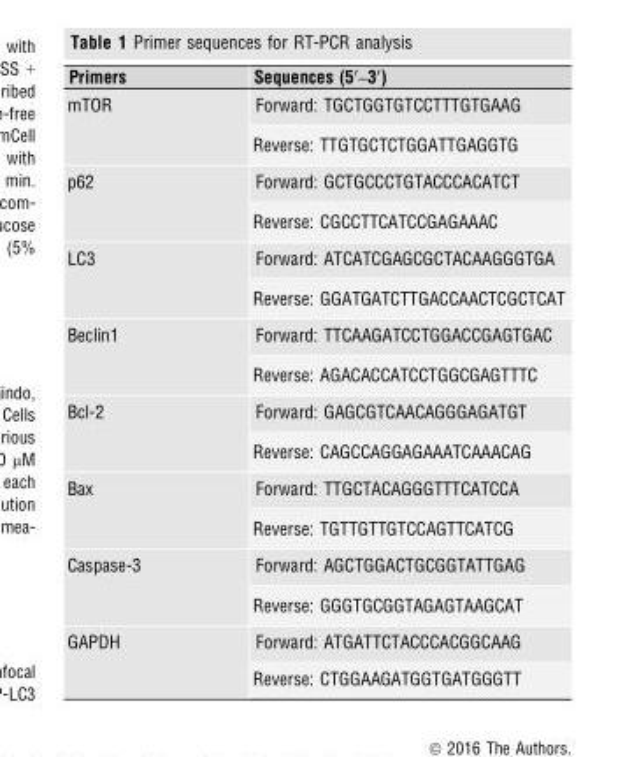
<table><thead><tr><td>Primers</td><td>Sequences (5′–3′)</td></tr></thead><tbody><tr><td rowspan="2">mTOR</td><td>Forward: TGCTGGTGTCCTTTGTGAAG</td></tr><tr><td>Reverse: TTGTGCTCTGGATTGAGGTG</td></tr><tr><td rowspan="2">p62</td><td>Forward: GCTGCCCTGTACCCACATCT</td></tr><tr><td>Reverse: CGCCTTCATCCGAGAAAC</td></tr><tr><td rowspan="2">LC3</td><td>Forward: ATCATCGAGCGCTACAAGGGTGA</td></tr><tr><td>Reverse: GGATGATCTTGACCAACTCGCTCAT</td></tr><tr><td rowspan="2">Beclin1</td><td>Forward: TTCAAGATCCTGGACCGAGTGAC</td></tr><tr><td>Reverse: AGACACCATCCTGGCGAGTTTC</td></tr><tr><td rowspan="2">Bcl-2</td><td>Forward: GAGCGTCAACAGGGAGATGT</td></tr><tr><td>Reverse: CAGCCAGGAGAAATCAAACAG</td></tr><tr><td rowspan="2">Bax</td><td>Forward: TTGCTACAGGGTTTCATCCA</td></tr><tr><td>Reverse: TGTTGTTGTCCAGTTCATCG</td></tr><tr><td rowspan="2">Caspase-3</td><td>Forward: AGCTGGACTGCGGTATTGAG</td></tr><tr><td>Reverse: GGGTGCGGTAGAGTAAGCAT</td></tr><tr><td rowspan="2">GAPDH</td><td>Forward: ATGATTCTACCCACGGCAAG</td></tr><tr><td>Reverse: CTGGAAGATGGTGATGGGTT</td></tr></tbody></table>